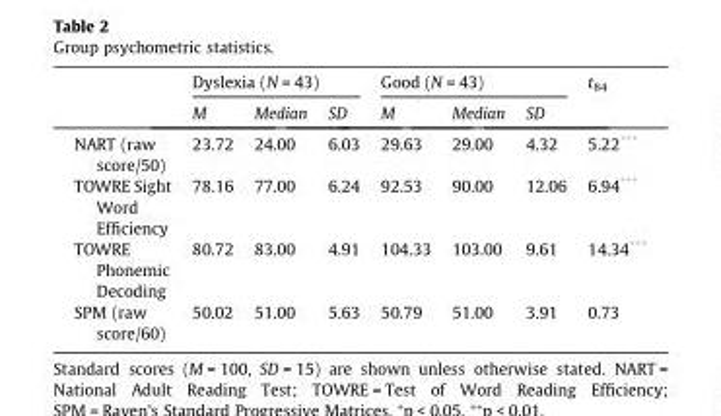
<table><thead><tr><td rowspan="2"></td><td colspan="3">Dyslexia (N = 43)</td><td colspan="3">Good (N = 43)</td><td rowspan="2">t<sub>84</sub></td></tr><tr><td>M</td><td>Median</td><td>SD</td><td>M</td><td>Median</td><td>SD</td></tr></thead><tbody><tr><td>NART (raw score/50)</td><td>23.72</td><td>24.00</td><td>6.03</td><td>29.63</td><td>29.00</td><td>4.32</td><td>5.22***</td></tr><tr><td>TOWRE Sight Word Efficiency</td><td>78.16</td><td>77.00</td><td>6.24</td><td>92.53</td><td>90.00</td><td>12.06</td><td>6.94***</td></tr><tr><td>TOWRE Phonemic Decoding</td><td>80.72</td><td>83.00</td><td>4.91</td><td>104.33</td><td>103.00</td><td>9.61</td><td>14.34***</td></tr><tr><td>SPM (raw score/60)</td><td>50.02</td><td>51.00</td><td>5.63</td><td>50.79</td><td>51.00</td><td>3.91</td><td>0.73</td></tr></tbody></table>